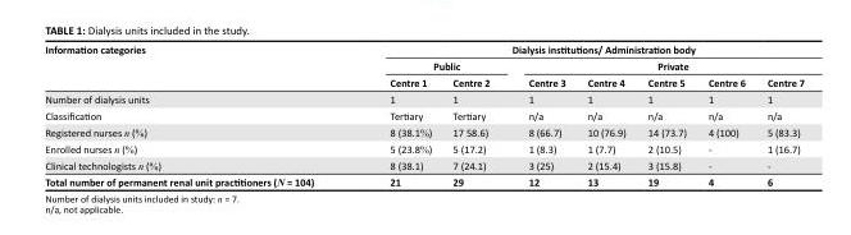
<table><thead><tr><td rowspan="3">Information categories</td><td colspan="7">Dialysis institutions/ Administration body</td></tr><tr><td colspan="2">Public</td><td colspan="5">Private</td></tr><tr><td>Centre 1</td><td>Centre 2</td><td>Centre 3</td><td>Centre 4</td><td>Centre 5</td><td>Centre 6</td><td>Centre 7</td></tr></thead><tbody><tr><td>Number of dialysis units</td><td>1</td><td>1</td><td>1</td><td>1</td><td>1</td><td>1</td><td>1</td></tr><tr><td>Classification</td><td>Tertiary</td><td>Tertiary</td><td>n/a</td><td>n/a</td><td>n/a</td><td>n/a</td><td>n/a</td></tr><tr><td>Registered nurses n (%)</td><td>8 (38.1%)</td><td>17 58.6)</td><td>8 (66.7)</td><td>10 (76.9)</td><td>14 (73.7)</td><td>4 (100)</td><td>5 (83.3)</td></tr><tr><td>Enrolled nurses n (%)</td><td>5 (23.8%)</td><td>5 (17.2)</td><td>1 (8.3)</td><td>1 (7.7)</td><td>2 (10.5)</td><td>-</td><td>1 (16.7)</td></tr><tr><td>Clinical technologists n (%)</td><td>8 (38.1)</td><td>7 (24.1)</td><td>3 (25)</td><td>2 (15.4)</td><td>3 (15.8)</td><td>-</td><td>-</td></tr><tr><td>Total number of permanent renal unit practitioners (N = 104)</td><td>21</td><td>29</td><td>12</td><td>13</td><td>19</td><td>4</td><td>6</td></tr></tbody></table>